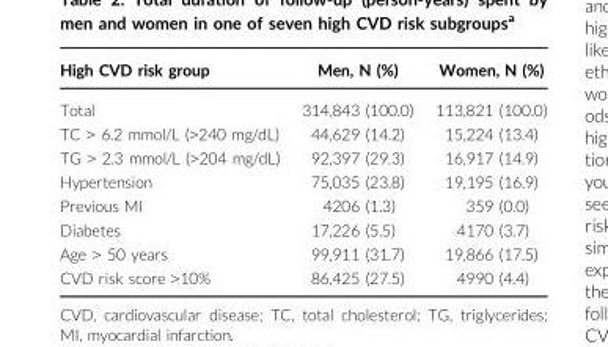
<table><thead><tr><td>High CVD risk group</td><td>Men, N (%)</td><td>Women, N (%)</td></tr></thead><tbody><tr><td>Total</td><td>314,843 (100.0)</td><td>113,821 (100.0)</td></tr><tr><td>TC &gt; 6.2 mmol/L (&gt;240 mg/dL)</td><td>44,629 (14.2)</td><td>15,224 (13.4)</td></tr><tr><td>TG &gt; 2.3 mmol/L (&gt;204 mg/dL)</td><td>92,397 (29.3)</td><td>16,917 (14.9)</td></tr><tr><td>Hypertension</td><td>75,035 (23.8)</td><td>19,195 (16.9)</td></tr><tr><td>Previous MI</td><td>4206 (1.3)</td><td>359 (0.0)</td></tr><tr><td>Diabetes</td><td>17,226 (5.5)</td><td>4170 (3.7)</td></tr><tr><td>Age &gt; 50 years</td><td>99,911 (31.7)</td><td>19,866 (17.5)</td></tr><tr><td>CVD risk score &gt;10%</td><td>86,425 (27.5)</td><td>4990 (4.4)</td></tr></tbody></table>